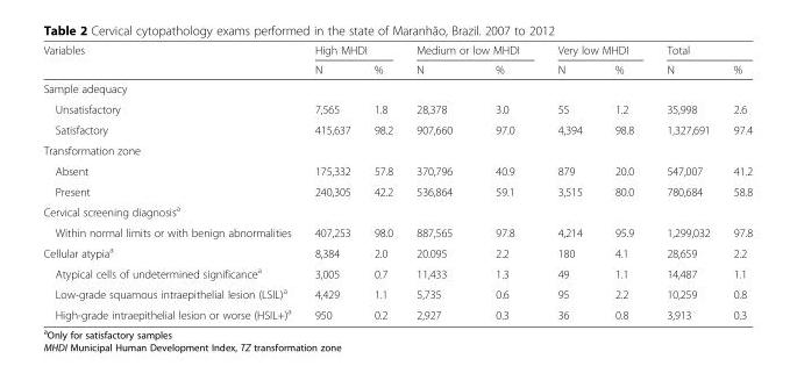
<table><thead><tr><td rowspan="2">Variables</td><td colspan="2">High MHDI</td><td colspan="2">Medium or low MHDI</td><td colspan="2">Very low MHDI</td><td colspan="2">Total</td></tr><tr><td>N</td><td>%</td><td>N</td><td>%</td><td>N</td><td>%</td><td>N</td><td>%</td></tr></thead><tbody><tr><td colspan="9">Sample adequacy</td></tr><tr><td>Unsatisfactory</td><td>7,565</td><td>1.8</td><td>28,378</td><td>3.0</td><td>55</td><td>1.2</td><td>35,998</td><td>2.6</td></tr><tr><td>Satisfactory</td><td>415,637</td><td>98.2</td><td>907,660</td><td>97.0</td><td>4,394</td><td>98.8</td><td>1,327,691</td><td>97.4</td></tr><tr><td colspan="9">Transformation zone</td></tr><tr><td>Absent</td><td>175,332</td><td>57.8</td><td>370,796</td><td>40.9</td><td>879</td><td>20.0</td><td>547,007</td><td>41.2</td></tr><tr><td>Present</td><td>240,305</td><td>42.2</td><td>536,864</td><td>59.1</td><td>3,515</td><td>80.0</td><td>780,684</td><td>58.8</td></tr><tr><td colspan="9">Cervical screening diagnosis<sup>a</sup></td></tr><tr><td>Within normal limits or with benign abnormalities</td><td>407,253</td><td>98.0</td><td>887,565</td><td>97.8</td><td>4,214</td><td>95.9</td><td>1,299,032</td><td>97.8</td></tr><tr><td>Cellular atypia<sup>a</sup></td><td>8,384</td><td>2.0</td><td>20.095</td><td>2.2</td><td>180</td><td>4.1</td><td>28,659</td><td>2.2</td></tr><tr><td>Atypical cells of undetermined significance<sup>a</sup></td><td>3,005</td><td>0.7</td><td>11,433</td><td>1.3</td><td>49</td><td>1.1</td><td>14,487</td><td>1.1</td></tr><tr><td>Low-grade squamous intraepithelial lesion (LSIL)<sup>a</sup></td><td>4,429</td><td>1.1</td><td>5,735</td><td>0.6</td><td>95</td><td>2.2</td><td>10,259</td><td>0.8</td></tr><tr><td>High-grade intraepithelial lesion or worse (HSIL+)<sup>a</sup></td><td>950</td><td>0.2</td><td>2,927</td><td>0.3</td><td>36</td><td>0.8</td><td>3,913</td><td>0.3</td></tr></tbody></table>